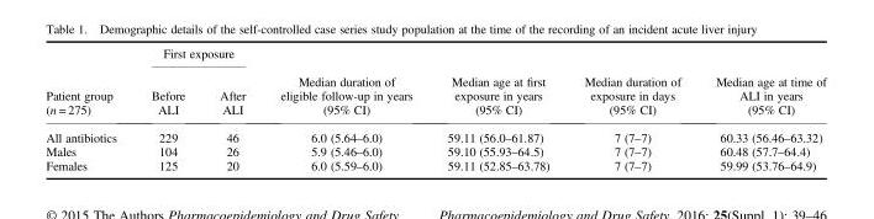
<table><thead><tr><td rowspan="2">Patient group (n = 275)</td><td colspan="2">First exposure</td><td rowspan="2">Median duration of eligible follow-up in years (95% CI)</td><td rowspan="2">Median age at first exposure in years (95% CI)</td><td rowspan="2">Median duration of exposure in days (95% CI)</td><td rowspan="2">Median age at time of ALI in years (95% CI)</td></tr><tr><td>Before ALI</td><td>After ALI</td></tr></thead><tbody><tr><td>All antibiotics</td><td>229</td><td>46</td><td>6.0 (5.64–6.0)</td><td>59.11 (56.0–61.87)</td><td>7 (7–7)</td><td>60.33 (56.46–63.32)</td></tr><tr><td>Males</td><td>104</td><td>26</td><td>5.9 (5.46–6.0)</td><td>59.10 (55.93–64.5)</td><td>7 (7–7)</td><td>60.48 (57.7–64.4)</td></tr><tr><td>Females</td><td>125</td><td>20</td><td>6.0 (5.59–6.0)</td><td>59.11 (52.85–63.78)</td><td>7 (7–7)</td><td>59.99 (53.76–64.9)</td></tr></tbody></table>